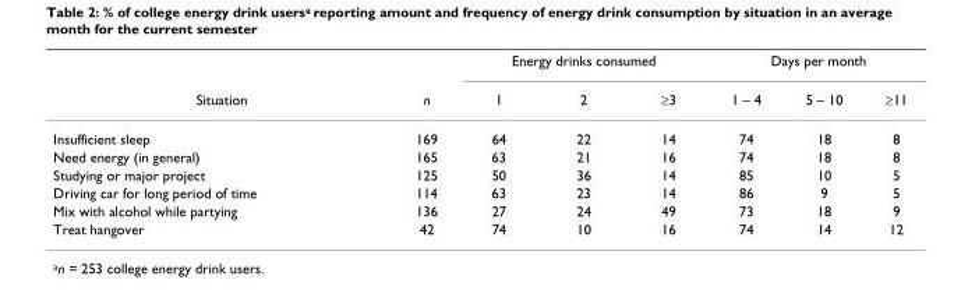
<table><thead><tr><td rowspan="2">Situation</td><td rowspan="2">n</td><td colspan="3">Energy drinks consumed</td><td colspan="3">Days per month</td></tr><tr><td>1</td><td>2</td><td>≥3</td><td>1 – 4</td><td>5 – 10</td><td>≥11</td></tr></thead><tbody><tr><td>Insufficient sleep</td><td>169</td><td>64</td><td>22</td><td>14</td><td>74</td><td>18</td><td>8</td></tr><tr><td>Need energy (in general)</td><td>165</td><td>63</td><td>21</td><td>16</td><td>74</td><td>18</td><td>8</td></tr><tr><td>Studying or major project</td><td>125</td><td>50</td><td>36</td><td>14</td><td>85</td><td>10</td><td>5</td></tr><tr><td>Driving car for long period of time</td><td>114</td><td>63</td><td>23</td><td>14</td><td>86</td><td>9</td><td>5</td></tr><tr><td>Mix with alcohol while partying</td><td>136</td><td>27</td><td>24</td><td>49</td><td>73</td><td>18</td><td>9</td></tr><tr><td>Treat hangover</td><td>42</td><td>74</td><td>10</td><td>16</td><td>74</td><td>14</td><td>12</td></tr></tbody></table>